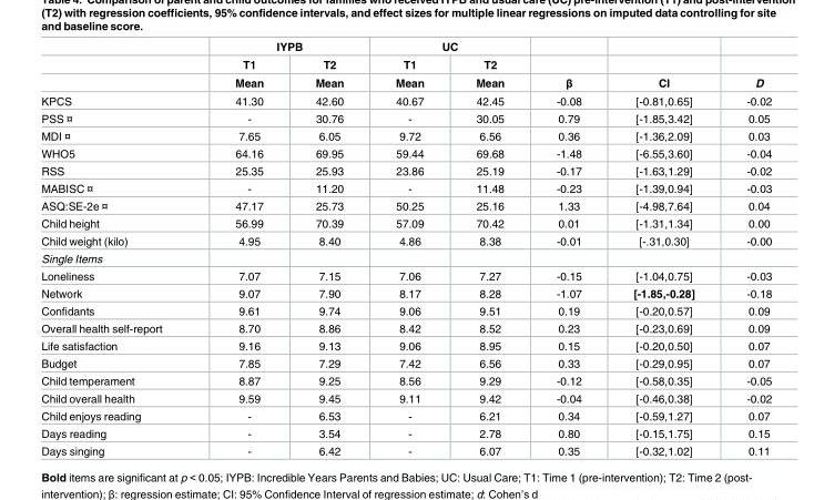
<table><thead><tr><td rowspan="3"></td><td colspan="2">IYPB</td><td colspan="2">UC</td><td rowspan="3">β</td><td rowspan="3">CI</td><td rowspan="3">D</td></tr><tr><td rowspan="2">T1 Mean</td><td rowspan="2">T2 Mean</td><td rowspan="2">T1 Mean</td><td rowspan="2">T2 Mean</td></tr><tr></tr></thead><tbody><tr><td>KPCS</td><td>41.30</td><td>42.60</td><td>40.67</td><td>42.45</td><td>-0.08</td><td>[-0.81,0.65]</td><td>-0.02</td></tr><tr><td>PSS ¤</td><td>-</td><td>30.76</td><td>-</td><td>30.05</td><td>0.79</td><td>[-1.85,3.42]</td><td>0.05</td></tr><tr><td>MDI ¤</td><td>7.65</td><td>6.05</td><td>9.72</td><td>6.56</td><td>0.36</td><td>[-1.36,2.09]</td><td>0.03</td></tr><tr><td>WHO5</td><td>64.16</td><td>69.95</td><td>59.44</td><td>69.68</td><td>-1.48</td><td>[-6.55,3.60]</td><td>-0.04</td></tr><tr><td>RSS</td><td>25.35</td><td>25.93</td><td>23.86</td><td>25.19</td><td>-0.17</td><td>[-1.63,1.29]</td><td>-0.02</td></tr><tr><td>MABISC ¤</td><td>-</td><td>11.20</td><td>-</td><td>11.48</td><td>-0.23</td><td>[-1.39,0.94]</td><td>-0.03</td></tr><tr><td>ASQ:SE-2e ¤</td><td>47.17</td><td>25.73</td><td>50.25</td><td>25.16</td><td>1.33</td><td>[-4.98,7.64]</td><td>0.04</td></tr><tr><td>Child height</td><td>56.99</td><td>70.39</td><td>57.09</td><td>70.42</td><td>0.01</td><td>[-1.31,1.34]</td><td>0.00</td></tr><tr><td>Child weight (kilo)</td><td>4.95</td><td>8.40</td><td>4.86</td><td>8.38</td><td>-0.01</td><td>[-.31,0.30]</td><td>-0.00</td></tr><tr><td colspan="8">Single Items</td></tr><tr><td>Loneliness</td><td>7.07</td><td>7.15</td><td>7.06</td><td>7.27</td><td>-0.15</td><td>[-1.04,0.75]</td><td>-0.03</td></tr><tr><td>Network</td><td>9.07</td><td>7.90</td><td>8.17</td><td>8.28</td><td>-1.07</td><td>[-1.85,-0.28]</td><td>-0.18</td></tr><tr><td>Confidants</td><td>9.61</td><td>9.74</td><td>9.06</td><td>9.51</td><td>0.19</td><td>[-0.20,0.57]</td><td>0.09</td></tr><tr><td>Overall health self-report</td><td>8.70</td><td>8.86</td><td>8.42</td><td>8.52</td><td>0.23</td><td>[-0.23,0.69]</td><td>0.09</td></tr><tr><td>Life satisfaction</td><td>9.16</td><td>9.13</td><td>9.06</td><td>8.95</td><td>0.15</td><td>[-0.20,0.50]</td><td>0.07</td></tr><tr><td>Budget</td><td>7.85</td><td>7.29</td><td>7.42</td><td>6.56</td><td>0.33</td><td>[-0.29,0.95]</td><td>0.07</td></tr><tr><td>Child temperament</td><td>8.87</td><td>9.25</td><td>8.56</td><td>9.29</td><td>-0.12</td><td>[-0.58,0.35]</td><td>-0.05</td></tr><tr><td>Child overall health</td><td>9.59</td><td>9.45</td><td>9.11</td><td>9.42</td><td>-0.04</td><td>[-0.46,0.38]</td><td>-0.02</td></tr><tr><td>Child enjoys reading</td><td>-</td><td>6.53</td><td>-</td><td>6.21</td><td>0.34</td><td>[-0.59,1.27]</td><td>0.07</td></tr><tr><td>Days reading</td><td>-</td><td>3.54</td><td>-</td><td>2.78</td><td>0.80</td><td>[-0.15,1.75]</td><td>0.15</td></tr><tr><td>Days singing</td><td>-</td><td>6.42</td><td>-</td><td>6.07</td><td>0.35</td><td>[-0.32,1.02]</td><td>0.11</td></tr></tbody></table>